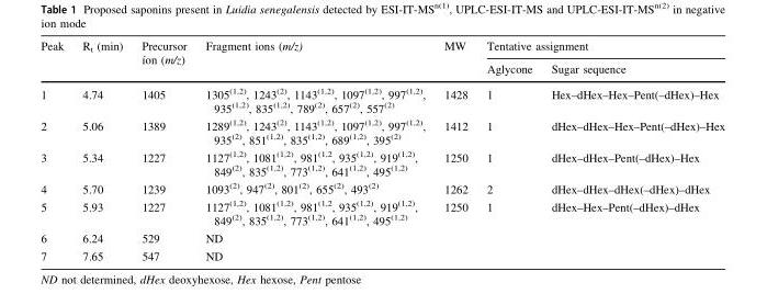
<table><thead><tr><td rowspan="2">Peak</td><td rowspan="2">R<sub>t</sub> (min)</td><td rowspan="2">Precursor ı´on (m/z)</td><td rowspan="2">Fragment ions (m/z)</td><td rowspan="2">MW</td><td colspan="2">Tentative assignment</td></tr><tr><td>Aglycone</td><td>Sugar sequence</td></tr></thead><tbody><tr><td>1</td><td>4.74</td><td>1405</td><td>1305<sup>(1,2)</sup>, 1243<sup>(2)</sup>, 1143<sup>(1,2)</sup>, 1097<sup>(1,2)</sup>, 997<sup>(1,2)</sup>, 935<sup>(1,2)</sup>, 835<sup>(1,2)</sup>, 789<sup>(2)</sup>, 657<sup>(2)</sup>, 557<sup>(2)</sup></td><td>1428</td><td>1</td><td>Hex–dHex–Hex–Pent(–dHex)–Hex</td></tr><tr><td>2</td><td>5.06</td><td>1389</td><td>1289<sup>(1,2)</sup>, 1243<sup>(2)</sup>, 1143<sup>(1,2)</sup>, 1097<sup>(1,2)</sup>, 997<sup>(1,2)</sup>, 935<sup>(2)</sup>, 851<sup>(1,2)</sup>, 835<sup>(1,2)</sup>, 689<sup>(1,2)</sup>, 395<sup>(2)</sup></td><td>1412</td><td>1</td><td>dHex–dHex–Hex–Pent(–dHex)–Hex</td></tr><tr><td>3</td><td>5.34</td><td>1227</td><td>1127<sup>(1,2)</sup>, 1081<sup>(1,2)</sup>, 981<sup>(1,2</sup>, 935<sup>(1,2)</sup>, 919<sup>(1,2)</sup>, 849<sup>(2)</sup>, 835<sup>(1,2)</sup>, 773<sup>(1,2)</sup>, 641<sup>(1,2)</sup>, 495<sup>(1,2)</sup></td><td>1250</td><td>1</td><td>dHex–dHex–Pent(–dHex)–Hex</td></tr><tr><td>4</td><td>5.70</td><td>1239</td><td>1093<sup>(2)</sup>, 947<sup>(2)</sup>, 801<sup>(2)</sup>, 655<sup>(2)</sup>, 493<sup>(2)</sup></td><td>1262</td><td>2</td><td>dHex–dHex–dHex(–dHex)–dHex</td></tr><tr><td>5</td><td>5.93</td><td>1227</td><td>1127<sup>(1,2)</sup>, 1081<sup>(1,2)</sup>, 981<sup>(1,2</sup>, 935<sup>(1,2)</sup>, 919<sup>(1,2)</sup>, 849<sup>(2)</sup>, 835<sup>(1,2)</sup>, 773<sup>(1,2)</sup>, 641<sup>(1,2)</sup>, 495<sup>(1,2)</sup></td><td>1250</td><td>1</td><td>dHex–Hex–Pent(–dHex)–dHex</td></tr><tr><td>6</td><td>6.24</td><td>529</td><td>ND</td><td></td><td></td><td></td></tr><tr><td>7</td><td>7.65</td><td>547</td><td>ND</td><td></td><td></td><td></td></tr></tbody></table>